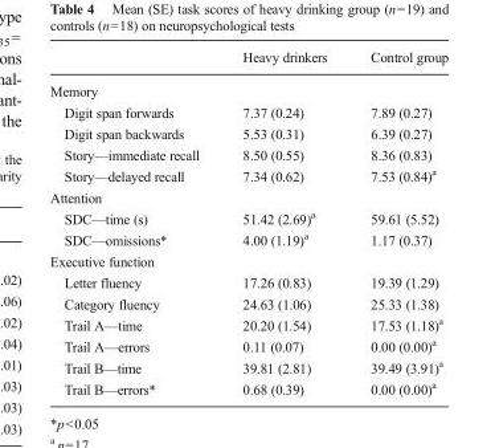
<table><thead><tr><td></td><td>Heavy drinkers</td><td>Control group</td></tr></thead><tbody><tr><td colspan="3">Memory</td></tr><tr><td>Digit span forwards</td><td>7.37 (0.24)</td><td>7.89 (0.27)</td></tr><tr><td>Digit span backwards</td><td>5.53 (0.31)</td><td>6.39 (0.27)</td></tr><tr><td>Story—immediate recall</td><td>8.50 (0.55)</td><td>8.36 (0.83)</td></tr><tr><td>Story—delayed recall</td><td>7.34 (0.62)</td><td>7.53 (0.84)<sup>a</sup></td></tr><tr><td colspan="3">Attention</td></tr><tr><td>SDC—time (s)</td><td>51.42 (2.69)<sup>a</sup></td><td>59.61 (5.52)</td></tr><tr><td>SDC—omissions*</td><td>4.00 (1.19)<sup>a</sup></td><td>1.17 (0.37)</td></tr><tr><td colspan="3">Executive function</td></tr><tr><td>Letter fluency</td><td>17.26 (0.83)</td><td>19.39 (1.29)</td></tr><tr><td>Category fluency</td><td>24.63 (1.06)</td><td>25.33 (1.38)</td></tr><tr><td>Trail A—time</td><td>20.20 (1.54)</td><td>17.53 (1.18)<sup>a</sup></td></tr><tr><td>Trail A—errors</td><td>0.11 (0.07)</td><td>0.00 (0.00)<sup>a</sup></td></tr><tr><td>Trail B—time</td><td>39.81 (2.81)</td><td>39.49 (3.91)<sup>a</sup></td></tr><tr><td>Trail B—errors*</td><td>0.68 (0.39)</td><td>0.00 (0.00)<sup>a</sup></td></tr></tbody></table>